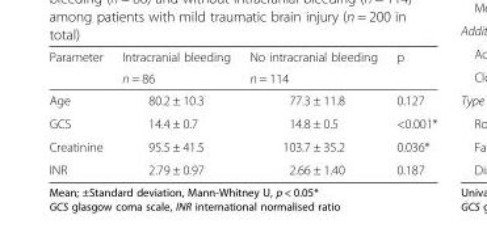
<table><thead><tr><td rowspan="2">Parameter</td><td rowspan="2">Intracranial bleeding n = 86</td><td rowspan="2">No intracranial bleeding n = 114</td><td rowspan="2">p</td></tr><tr></tr></thead><tbody><tr><td>Age</td><td>80.2 ± 10.3</td><td>77.3 ± 11.8</td><td>0.127</td></tr><tr><td>GCS</td><td>14.4 ± 0.7</td><td>14.8 ± 0.5</td><td>&lt;0.001*</td></tr><tr><td>Creatinine</td><td>95.5 ± 41.5</td><td>103.7 ± 35.2</td><td>0.036*</td></tr><tr><td>INR</td><td>2.79 ± 0.97</td><td>2.66 ± 1.40</td><td>0.187</td></tr></tbody></table>